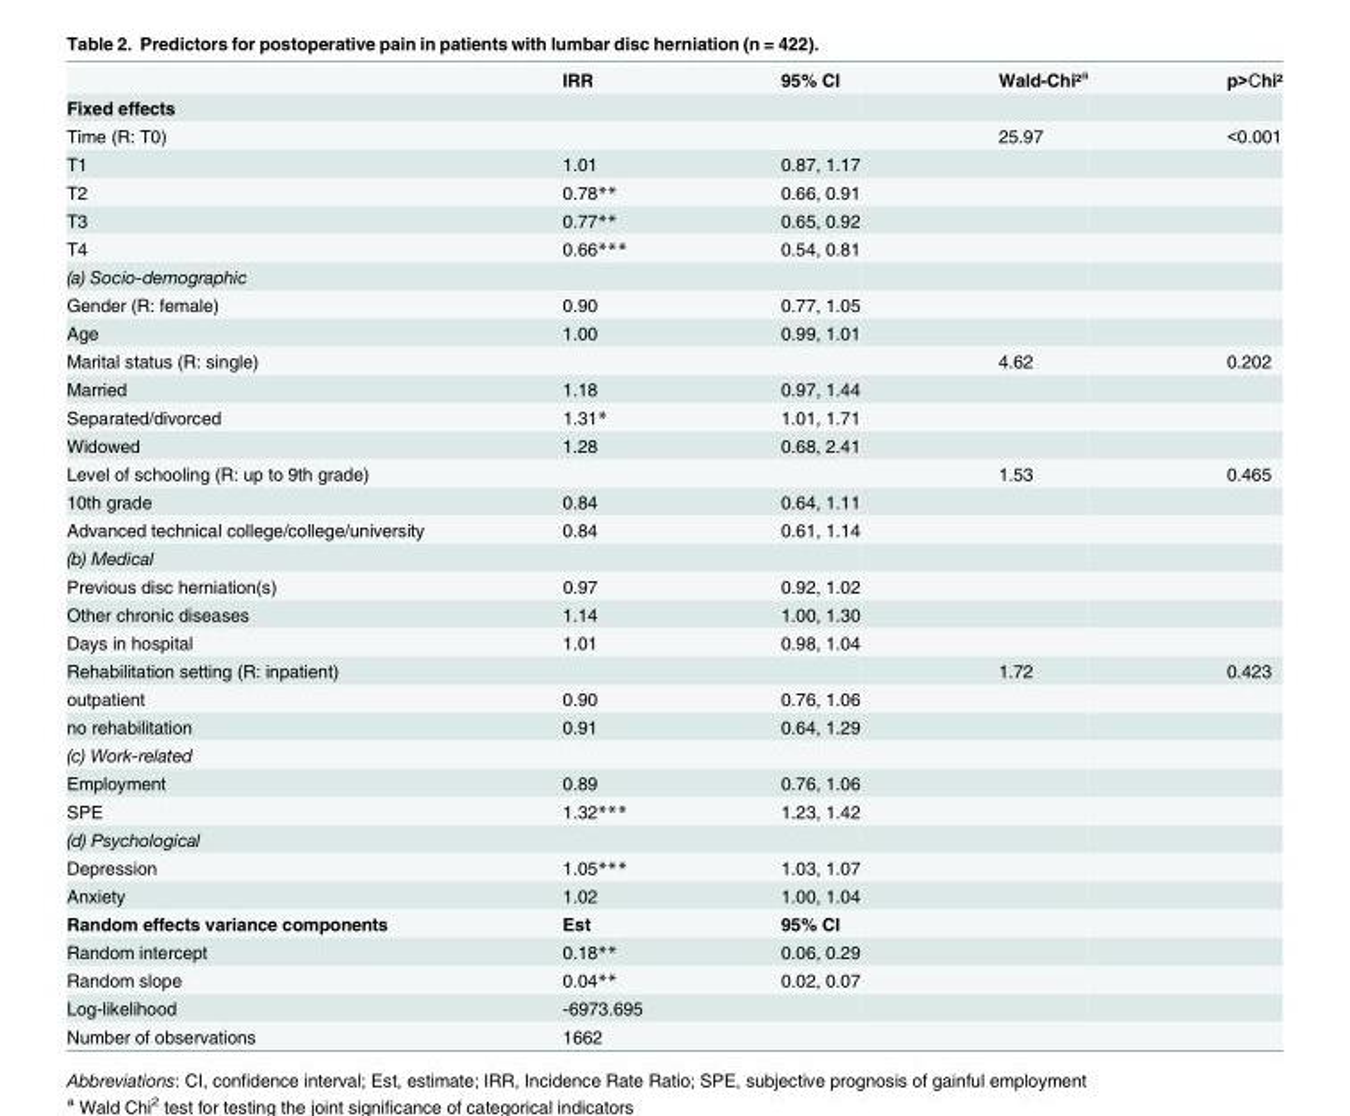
<table><thead><tr><td></td><td>IRR</td><td>95% CI</td><td>Wald-Chi²<sup>a</sup></td><td>p&gt;Chi²</td></tr></thead><tbody><tr><td colspan="5">Fixed effects</td></tr><tr><td>Time (R: T0)</td><td></td><td></td><td>25.97</td><td>&lt;0.001</td></tr><tr><td>T1</td><td>1.01</td><td>0.87, 1.17</td><td></td><td></td></tr><tr><td>T2</td><td>0.78**</td><td>0.66, 0.91</td><td></td><td></td></tr><tr><td>T3</td><td>0.77**</td><td>0.65, 0.92</td><td></td><td></td></tr><tr><td>T4</td><td>0.66***</td><td>0.54, 0.81</td><td></td><td></td></tr><tr><td colspan="5">(a) Socio-demographic</td></tr><tr><td>Gender (R: female)</td><td>0.90</td><td>0.77, 1.05</td><td></td><td></td></tr><tr><td>Age</td><td>1.00</td><td>0.99, 1.01</td><td></td><td></td></tr><tr><td>Marital status (R: single)</td><td></td><td></td><td>4.62</td><td>0.202</td></tr><tr><td>Married</td><td>1.18</td><td>0.97, 1.44</td><td></td><td></td></tr><tr><td>Separated/divorced</td><td>1.31*</td><td>1.01, 1.71</td><td></td><td></td></tr><tr><td>Widowed</td><td>1.28</td><td>0.68, 2.41</td><td></td><td></td></tr><tr><td>Level of schooling (R: up to 9th grade)</td><td></td><td></td><td>1.53</td><td>0.465</td></tr><tr><td>10th grade</td><td>0.84</td><td>0.64, 1.11</td><td></td><td></td></tr><tr><td>Advanced technical college/college/university</td><td>0.84</td><td>0.61, 1.14</td><td></td><td></td></tr><tr><td colspan="5">(b) Medical</td></tr><tr><td>Previous disc herniation(s)</td><td>0.97</td><td>0.92, 1.02</td><td></td><td></td></tr><tr><td>Other chronic diseases</td><td>1.14</td><td>1.00, 1.30</td><td></td><td></td></tr><tr><td>Days in hospital</td><td>1.01</td><td>0.98, 1.04</td><td></td><td></td></tr><tr><td>Rehabilitation setting (R: inpatient)</td><td></td><td></td><td>1.72</td><td>0.423</td></tr><tr><td>outpatient</td><td>0.90</td><td>0.76, 1.06</td><td></td><td></td></tr><tr><td>no rehabilitation</td><td>0.91</td><td>0.64, 1.29</td><td></td><td></td></tr><tr><td colspan="5">(c) Work-related</td></tr><tr><td>Employment</td><td>0.89</td><td>0.76, 1.06</td><td></td><td></td></tr><tr><td>SPE</td><td>1.32***</td><td>1.23, 1.42</td><td></td><td></td></tr><tr><td colspan="5">(d) Psychological</td></tr><tr><td>Depression</td><td>1.05***</td><td>1.03, 1.07</td><td></td><td></td></tr><tr><td>Anxiety</td><td>1.02</td><td>1.00, 1.04</td><td></td><td></td></tr><tr><td>Random effects variance components</td><td>Est</td><td>95% CI</td><td></td><td></td></tr><tr><td>Random intercept</td><td>0.18**</td><td>0.06, 0.29</td><td></td><td></td></tr><tr><td>Random slope</td><td>0.04**</td><td>0.02, 0.07</td><td></td><td></td></tr><tr><td>Log-likelihood</td><td>-6973.695</td><td></td><td></td><td></td></tr><tr><td>Number of observations</td><td>1662</td><td></td><td></td><td></td></tr></tbody></table>